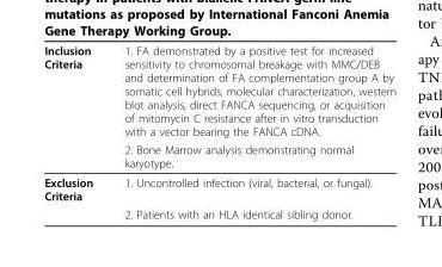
<table><tbody><tr><td rowspan="2">Inclusion Criteria</td><td>1. FA demonstrated by a positive test for increased sensitivity to chromosomal breakage with MMC/DEB and determination of FA complementation group A by somatic cell hybrids, molecular characterization, western blot analysis, direct FANCA sequencing, or acquisition of mitomycin C resistance after in vitro transduction with a vector bearing the FANCA cDNA.</td></tr><tr><td>2. Bone Marrow analysis demonstrating normal karyotype.</td></tr><tr><td rowspan="2">Exclusion Criteria</td><td>1. Uncontrolled infection (viral, bacterial, or fungal).</td></tr><tr><td>2. Patients with an HLA identical sibling donor.</td></tr></tbody></table>